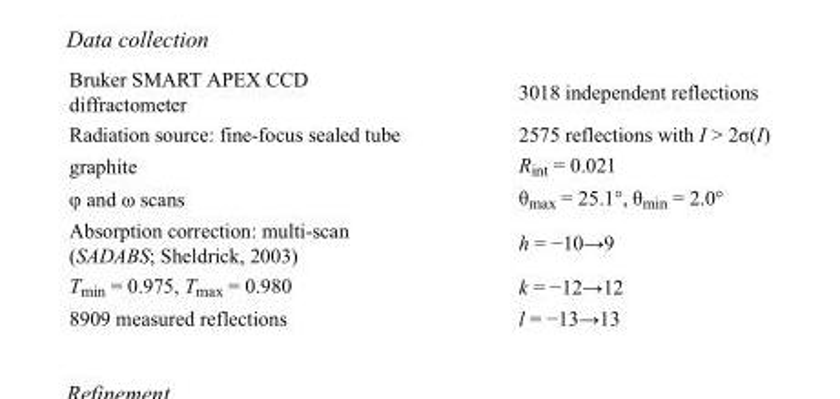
<table><tbody><tr><td>Bruker SMART APEX CCD diffractometer</td><td>3018 independent reflections</td></tr><tr><td>Radiation source: fine-focus sealed tube</td><td>2575 reflections with I &gt; 2σ(I)</td></tr><tr><td>graphite</td><td>R<sub>int</sub> = 0.021</td></tr><tr><td>φ and ω scans</td><td>θ<sub>max</sub> = 25.1°, θ<sub>min</sub> = 2.0°</td></tr><tr><td>Absorption correction: multi-scan (SADABS; Sheldrick, 2003)</td><td>h = −10→9</td></tr><tr><td>T<sub>min</sub> = 0.975, T<sub>max</sub> = 0.980</td><td>k = −12→12</td></tr><tr><td>8909 measured reflections</td><td>l = −13→13</td></tr></tbody></table>